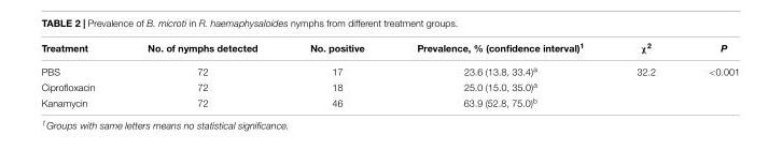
<table><thead><tr><td>Treatment</td><td>No. of nymphs detected</td><td>No. positive</td><td>Prevalence, % (confidence interval)<sup>1</sup></td><td>χ<sup>2</sup></td><td>P</td></tr></thead><tbody><tr><td>PBS</td><td>72</td><td>17</td><td>23.6 (13.8, 33.4)<sup>a</sup></td><td>32.2</td><td>&lt;0.001</td></tr><tr><td>Ciprofloxacin</td><td>72</td><td>18</td><td>25.0 (15.0, 35.0)<sup>a</sup></td><td></td><td></td></tr><tr><td>Kanamycin</td><td>72</td><td>46</td><td>63.9 (52.8, 75.0)<sup>b</sup></td><td></td><td></td></tr></tbody></table>